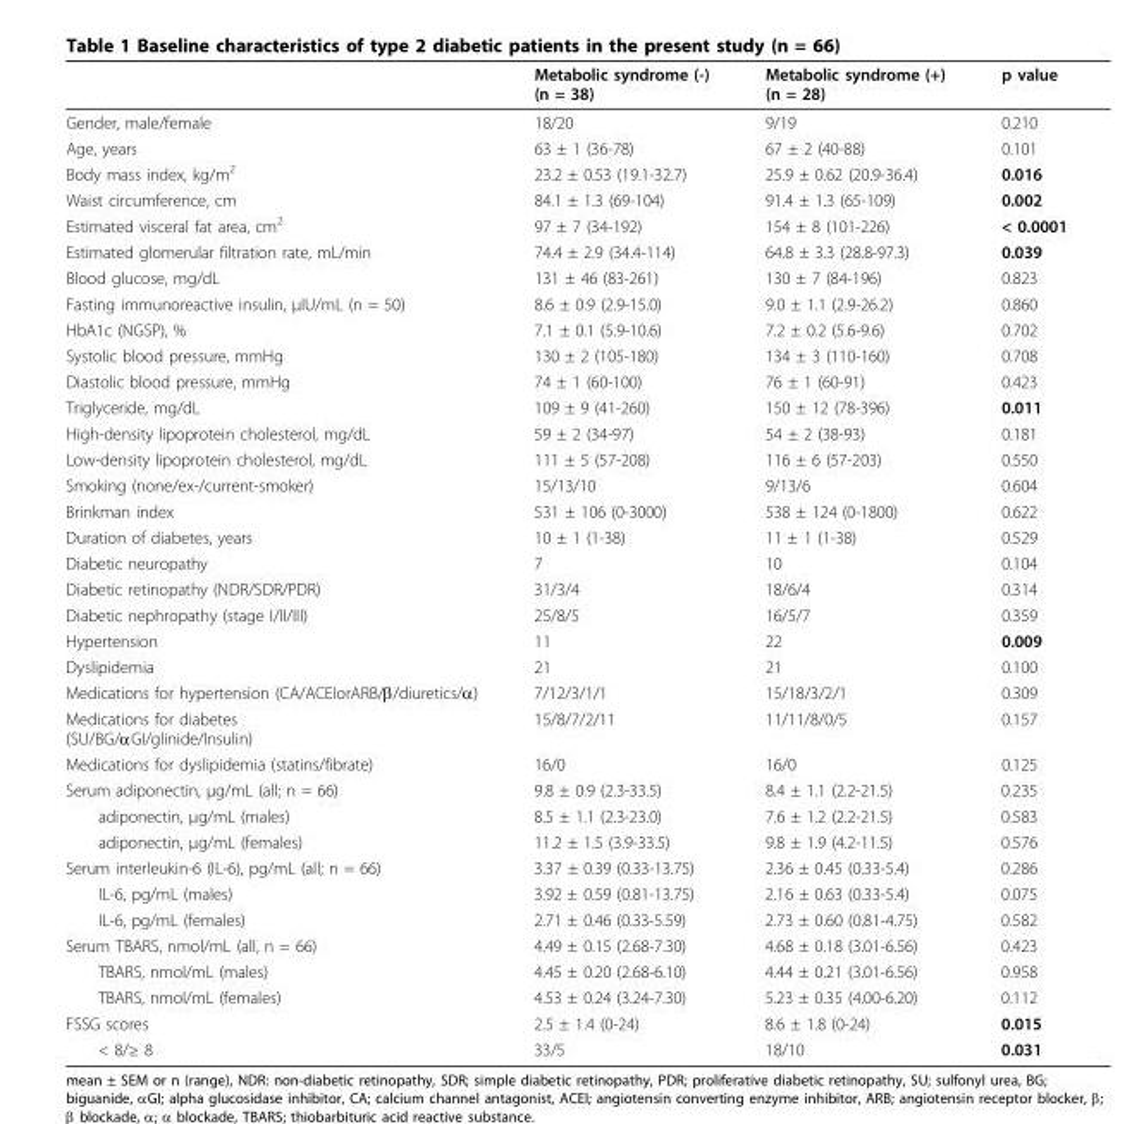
<table><thead><tr><td></td><td>Metabolic syndrome (-) (n = 38)</td><td>Metabolic syndrome (+) (n = 28)</td><td>p value</td></tr></thead><tbody><tr><td>Gender, male/female</td><td>18/20</td><td>9/19</td><td>0.210</td></tr><tr><td>Age, years</td><td>63 ± 1 (36-78)</td><td>67 ± 2 (40-88)</td><td>0.101</td></tr><tr><td>Body mass index, kg/m<sup>2</sup></td><td>23.2 ± 0.53 (19.1-32.7)</td><td>25.9 ± 0.62 (20.9-36.4)</td><td>0.016</td></tr><tr><td>Waist circumference, cm</td><td>84.1 ± 1.3 (69-104)</td><td>91.4 ± 1.3 (65-109)</td><td>0.002</td></tr><tr><td>Estimated visceral fat area, cm<sup>2</sup></td><td>97 ± 7 (34-192)</td><td>154 ± 8 (101-226)</td><td>&lt; 0.0001</td></tr><tr><td>Estimated glomerular filtration rate, mL/min</td><td>74.4 ± 2.9 (34.4-114)</td><td>64.8 ± 3.3 (28.8-97.3)</td><td>0.039</td></tr><tr><td>Blood glucose, mg/dL</td><td>131 ± 46 (83-261)</td><td>130 ± 7 (84-196)</td><td>0.823</td></tr><tr><td>Fasting immunoreactive insulin, μIU/mL (n = 50)</td><td>8.6 ± 0.9 (2.9-15.0)</td><td>9.0 ± 1.1 (2.9-26.2)</td><td>0.860</td></tr><tr><td>HbA1c (NGSP), %</td><td>7.1 ± 0.1 (5.9-10.6)</td><td>7.2 ± 0.2 (5.6-9.6)</td><td>0.702</td></tr><tr><td>Systolic blood pressure, mmHg</td><td>130 ± 2 (105-180)</td><td>134 ± 3 (110-160)</td><td>0.708</td></tr><tr><td>Diastolic blood pressure, mmHg</td><td>74 ± 1 (60-100)</td><td>76 ± 1 (60-91)</td><td>0.423</td></tr><tr><td>Triglyceride, mg/dL</td><td>109 ± 9 (41-260)</td><td>150 ± 12 (78-396)</td><td>0.011</td></tr><tr><td>High-density lipoprotein cholesterol, mg/dL</td><td>59 ± 2 (34-97)</td><td>54 ± 2 (38-93)</td><td>0.181</td></tr><tr><td>Low-density lipoprotein cholesterol, mg/dL</td><td>111 ± 5 (57-208)</td><td>116 ± 6 (57-203)</td><td>0.550</td></tr><tr><td>Smoking (none/ex-/current-smoker)</td><td>15/13/10</td><td>9/13/6</td><td>0.604</td></tr><tr><td>Brinkman index</td><td>531 ± 106 (0-3000)</td><td>538 ± 124 (0-1800)</td><td>0.622</td></tr><tr><td>Duration of diabetes, years</td><td>10 ± 1 (1-38)</td><td>11 ± 1 (1-38)</td><td>0.529</td></tr><tr><td>Diabetic neuropathy</td><td>7</td><td>10</td><td>0.104</td></tr><tr><td>Diabetic retinopathy (NDR/SDR/PDR)</td><td>31/3/4</td><td>18/6/4</td><td>0.314</td></tr><tr><td>Diabetic nephropathy (stage I/II/III)</td><td>25/8/5</td><td>16/5/7</td><td>0.359</td></tr><tr><td>Hypertension</td><td>11</td><td>22</td><td>0.009</td></tr><tr><td>Dyslipidemia</td><td>21</td><td>21</td><td>0.100</td></tr><tr><td>Medications for hypertension (CA/ACEIorARB/β/diuretics/α)</td><td>7/12/3/1/1</td><td>15/18/3/2/1</td><td>0.309</td></tr><tr><td>Medications for diabetes (SU/BG/αGI/glinide/Insulin)</td><td>15/8/7/2/11</td><td>11/11/8/0/5</td><td>0.157</td></tr><tr><td>Medications for dyslipidemia (statins/fibrate)</td><td>16/0</td><td>16/0</td><td>0.125</td></tr><tr><td>Serum adiponectin, μg/mL (all; n = 66)</td><td>9.8 ± 0.9 (2.3-33.5)</td><td>8.4 ± 1.1 (2.2-21.5)</td><td>0.235</td></tr><tr><td>adiponectin, μg/mL (males)</td><td>8.5 ± 1.1 (2.3-23.0)</td><td>7.6 ± 1.2 (2.2-21.5)</td><td>0.583</td></tr><tr><td>adiponectin, μg/mL (females)</td><td>11.2 ± 1.5 (3.9-33.5)</td><td>9.8 ± 1.9 (4.2-11.5)</td><td>0.576</td></tr><tr><td>Serum interleukin-6 (IL-6), pg/mL (all; n = 66)</td><td>3.37 ± 0.39 (0.33-13.75)</td><td>2.36 ± 0.45 (0.33-5.4)</td><td>0.286</td></tr><tr><td>IL-6, pg/mL (males)</td><td>3.92 ± 0.59 (0.81-13.75)</td><td>2.16 ± 0.63 (0.33-5.4)</td><td>0.075</td></tr><tr><td>IL-6, pg/mL (females)</td><td>2.71 ± 0.46 (0.33-5.59)</td><td>2.73 ± 0.60 (0.81-4.75)</td><td>0.582</td></tr><tr><td>Serum TBARS, nmol/mL (all, n = 66)</td><td>4.49 ± 0.15 (2.68-7.30)</td><td>4.68 ± 0.18 (3.01-6.56)</td><td>0.423</td></tr><tr><td>TBARS, nmol/mL (males)</td><td>4.45 ± 0.20 (2.68-6.10)</td><td>4.44 ± 0.21 (3.01-6.56)</td><td>0.958</td></tr><tr><td>TBARS, nmol/mL (females)</td><td>4.53 ± 0.24 (3.24-7.30)</td><td>5.23 ± 0.35 (4.00-6.20)</td><td>0.112</td></tr><tr><td>FSSG scores</td><td>2.5 ± 1.4 (0-24)</td><td>8.6 ± 1.8 (0-24)</td><td>0.015</td></tr><tr><td>&lt; 8/≥ 8</td><td>33/5</td><td>18/10</td><td>0.031</td></tr></tbody></table>